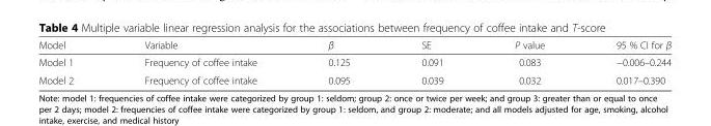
<table><thead><tr><td>Model</td><td>Variable</td><td>β</td><td>SE</td><td>P value</td><td>95 % CI for β</td></tr></thead><tbody><tr><td>Model 1</td><td>Frequency of coffee intake</td><td>0.125</td><td>0.091</td><td>0.083</td><td>−0.006–0.244</td></tr><tr><td>Model 2</td><td>Frequency of coffee intake</td><td>0.095</td><td>0.039</td><td>0.032</td><td>0.017–0.390</td></tr></tbody></table>